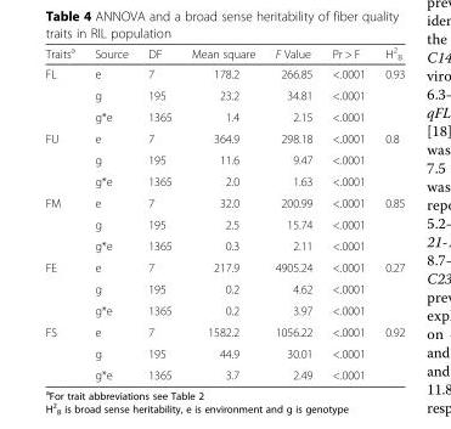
<table><thead><tr><td>Traits<sup>a</sup></td><td>Source</td><td>DF</td><td>Mean square</td><td>F Value</td><td>Pr &gt; F</td><td>H<sup>2</sup> <sub>B</sub></td></tr></thead><tbody><tr><td rowspan="3">FL</td><td>e</td><td>7</td><td>178.2</td><td>266.85</td><td>&lt;.0001</td><td>0.93</td></tr><tr><td>g</td><td>195</td><td>23.2</td><td>34.81</td><td>&lt;.0001</td><td></td></tr><tr><td>g*e</td><td>1365</td><td>1.4</td><td>2.15</td><td>&lt;.0001</td><td></td></tr><tr><td rowspan="3">FU</td><td>e</td><td>7</td><td>364.9</td><td>298.18</td><td>&lt;.0001</td><td>0.8</td></tr><tr><td>g</td><td>195</td><td>11.6</td><td>9.47</td><td>&lt;.0001</td><td></td></tr><tr><td>g*e</td><td>1365</td><td>2.0</td><td>1.63</td><td>&lt;.0001</td><td></td></tr><tr><td rowspan="3">FM</td><td>e</td><td>7</td><td>32.0</td><td>200.99</td><td>&lt;.0001</td><td>0.85</td></tr><tr><td>g</td><td>195</td><td>2.5</td><td>15.74</td><td>&lt;.0001</td><td></td></tr><tr><td>g*e</td><td>1365</td><td>0.3</td><td>2.11</td><td>&lt;.0001</td><td></td></tr><tr><td rowspan="3">FE</td><td>e</td><td>7</td><td>217.9</td><td>4905.24</td><td>&lt;.0001</td><td>0.27</td></tr><tr><td>g</td><td>195</td><td>0.2</td><td>4.62</td><td>&lt;.0001</td><td></td></tr><tr><td>g*e</td><td>1365</td><td>0.2</td><td>3.97</td><td>&lt;.0001</td><td></td></tr><tr><td rowspan="3">FS</td><td>e</td><td>7</td><td>1582.2</td><td>1056.22</td><td>&lt;.0001</td><td>0.92</td></tr><tr><td>g</td><td>195</td><td>44.9</td><td>30.01</td><td>&lt;.0001</td><td></td></tr><tr><td>g*e</td><td>1365</td><td>3.7</td><td>2.49</td><td>&lt;.0001</td><td></td></tr></tbody></table>